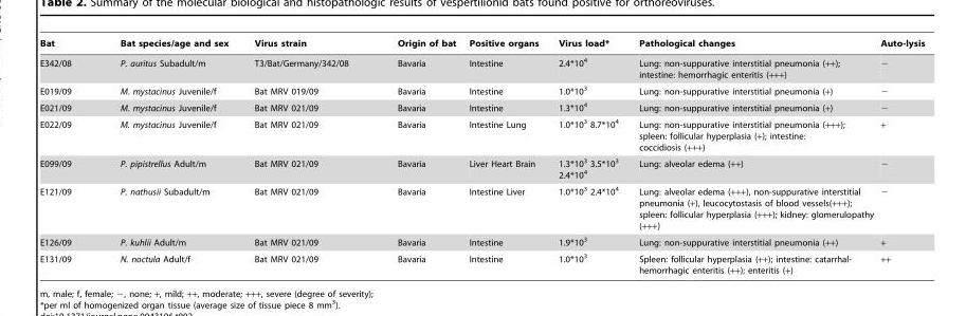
<table><thead><tr><td>Bat</td><td>Bat species/age and sex</td><td>Virus strain</td><td>Origin of bat</td><td>Positive organs</td><td>Virus load*</td><td>Pathological changes</td><td>Auto-lysis</td></tr></thead><tbody><tr><td>E342/08</td><td>P. auritus Subadult/m</td><td>T3/Bat/Germany/342/08</td><td>Bavaria</td><td>Intestine</td><td>2.4*10<sup>4</sup></td><td>Lung: non-suppurative interstitial pneumonia (++); intestine: hemorrhagic enteritis (+++)</td><td>−</td></tr><tr><td>E019/09</td><td>M. mystacinus Juvenile/f</td><td>Bat MRV 019/09</td><td>Bavaria</td><td>Intestine</td><td>1.0*10<sup>3</sup></td><td>Lung: non-suppurative interstitial pneumonia (+)</td><td>−</td></tr><tr><td>E021/09</td><td>M. mystacinus Juvenile/f</td><td>Bat MRV 021/09</td><td>Bavaria</td><td>Intestine</td><td>1.3*10<sup>4</sup></td><td>Lung: non-suppurative interstitial pneumonia (+)</td><td>−</td></tr><tr><td>E022/09</td><td>M. mystacinus Juvenile/f</td><td>Bat MRV 021/09</td><td>Bavaria</td><td>Intestine Lung</td><td>1.0*10<sup>3</sup> 8.7*10<sup>4</sup></td><td>Lung: non-suppurative interstitial pneumonia (+++); spleen: follicular hyperplasia (+); intestine: coccidiosis (+++)</td><td>+</td></tr><tr><td>E099/09</td><td>P. pipistrellus Adult/m</td><td>Bat MRV 021/09</td><td>Bavaria</td><td>Liver Heart Brain</td><td>1.3*10<sup>3</sup> 3.5*10<sup>3</sup> 2.4*10<sup>4</sup></td><td>Lung: alveolar edema (++)</td><td>−</td></tr><tr><td>E121/09</td><td>P. nathusii Subadult/m</td><td>Bat MRV 021/09</td><td>Bavaria</td><td>Intestine Liver</td><td>1.0*10<sup>3</sup> 2.4*10<sup>4</sup></td><td>Lung: alveolar edema (+++), non-suppurative interstitial pneumonia (+), leucocytostasis of blood vessels(+++); spleen: follicular hyperplasia (+++); kidney: glomerulopathy (+++)</td><td>−</td></tr><tr><td>E126/09</td><td>P. kuhlii Adult/m</td><td>Bat MRV 021/09</td><td>Bavaria</td><td>Intestine</td><td>1.9*10<sup>3</sup></td><td>Lung: non-suppurative interstitial pneumonia (++)</td><td>+</td></tr><tr><td>E131/09</td><td>N. noctula Adult/f</td><td>Bat MRV 021/09</td><td>Bavaria</td><td>Intestine</td><td>1.0*10<sup>3</sup></td><td>Spleen: follicular hyperplasia (++); intestine: catarrhal- hemorrhagic enteritis (++); enteritis (+)</td><td>++</td></tr></tbody></table>